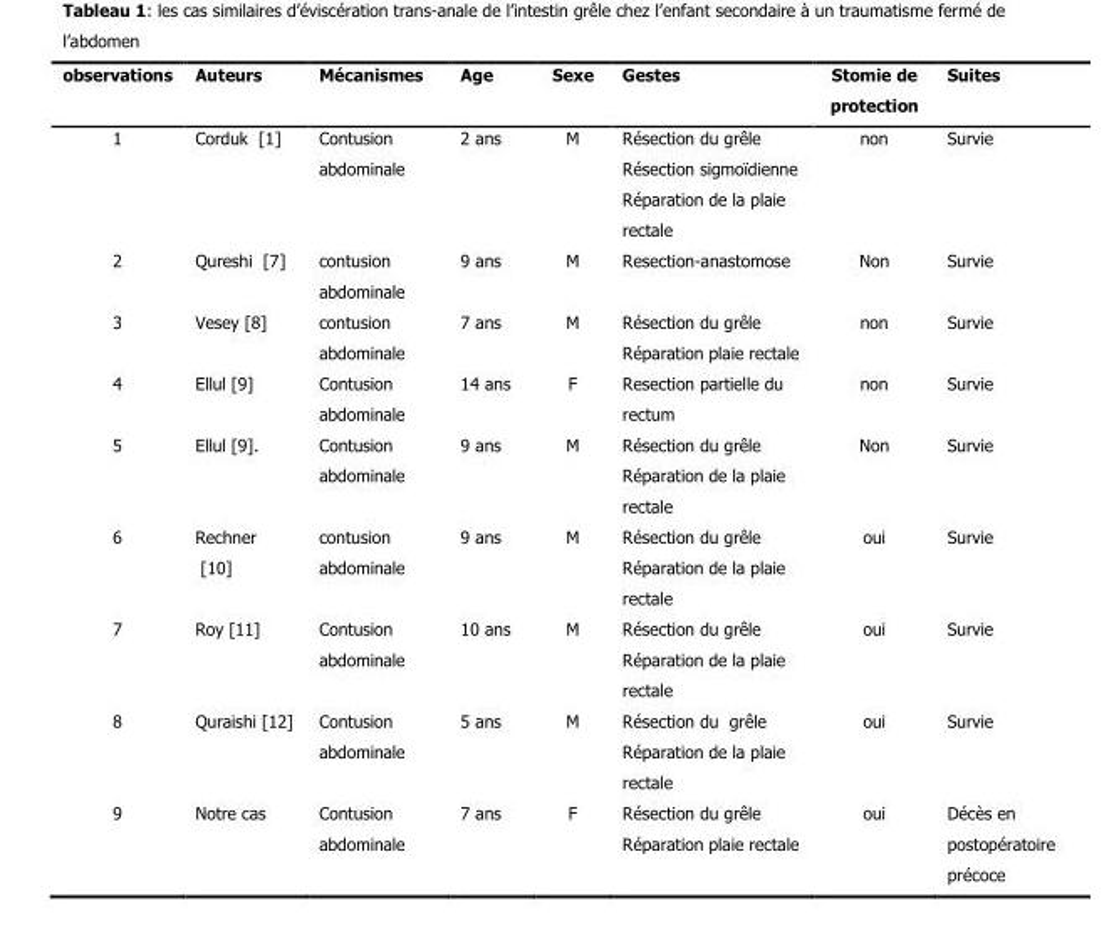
<table><thead><tr><td>observations</td><td>Auteurs</td><td>Mécanismes</td><td>Age</td><td>Sexe</td><td>Gestes</td><td>Stomie de protection</td><td>Suites</td></tr></thead><tbody><tr><td>1</td><td>Corduk [1]</td><td>Contusion abdominale</td><td>2 ans</td><td>M</td><td>Résection du grêle Résection sigmoïdienne Réparation de la plaie rectale</td><td>non</td><td>Survie</td></tr><tr><td>2</td><td>Qureshi [7]</td><td>contusion abdominale</td><td>9 ans</td><td>M</td><td>Resection-anastomose</td><td>Non</td><td>Survie</td></tr><tr><td>3</td><td>Vesey [8]</td><td>contusion abdominale</td><td>7 ans</td><td>M</td><td>Résection du grêle Réparation plaie rectale</td><td>non</td><td>Survie</td></tr><tr><td>4</td><td>Ellul [9]</td><td>Contusion abdominale</td><td>14 ans</td><td>F</td><td>Resection partielle du rectum</td><td>non</td><td>Survie</td></tr><tr><td>5</td><td>Ellul [9].</td><td>Contusion abdominale</td><td>9 ans</td><td>M</td><td>Résection du grêle Réparation de la plaie rectale</td><td>Non</td><td>Survie</td></tr><tr><td>6</td><td>Rechner [10]</td><td>contusion abdominale</td><td>9 ans</td><td>M</td><td>Résection du grêle Réparation de la plaie rectale</td><td>oui</td><td>Survie</td></tr><tr><td>7</td><td>Roy [11]</td><td>Contusion abdominale</td><td>10 ans</td><td>M</td><td>Résection du grêle Réparation de la plaie rectale</td><td>oui</td><td>Survie</td></tr><tr><td>8</td><td>Quraishi [12]</td><td>Contusion abdominale</td><td>5 ans</td><td>M</td><td>Résection du grêle Réparation de la plaie rectale</td><td>oui</td><td>Survie</td></tr><tr><td>9</td><td>Notre cas</td><td>Contusion abdominale</td><td>7 ans</td><td>F</td><td>Résection du grêle Réparation plaie rectale</td><td>oui</td><td>Décès en postopératoire précoce</td></tr></tbody></table>